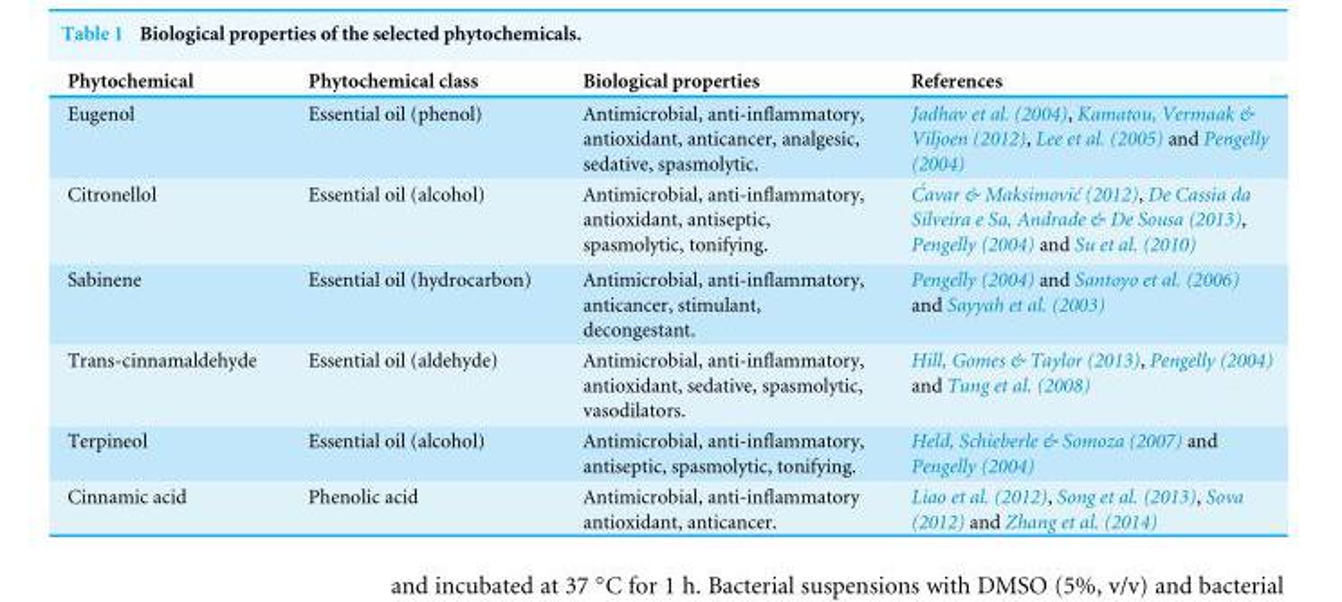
<table><thead><tr><td>Phytochemical</td><td>Phytochemical class</td><td>Biological properties</td><td>References</td></tr></thead><tbody><tr><td>Eugenol</td><td>Essential oil (phenol)</td><td>Antimicrobial, anti-inflammatory, antioxidant, anticancer, analgesic, sedative, spasmolytic.</td><td>Jadhav et al. (2004), Kamatou, Vermaak &amp; Viljoen (2012), Lee et al. (2005) and Pengelly (2004)</td></tr><tr><td>Citronellol</td><td>Essential oil (alcohol)</td><td>Antimicrobial, anti-inflammatory, antioxidant, antiseptic, spasmolytic, tonifying.</td><td>Ćavar &amp; Maksimović (2012), De Cassia da Silveira e Sa, Andrade &amp; De Sousa (2013), Pengelly (2004) and Su et al. (2010)</td></tr><tr><td>Sabinene</td><td>Essential oil (hydrocarbon)</td><td>Antimicrobial, anti-inflammatory, anticancer, stimulant, decongestant.</td><td>Pengelly (2004) and Santoyo et al. (2006) and Sayyah et al. (2003)</td></tr><tr><td>Trans-cinnamaldehyde</td><td>Essential oil (aldehyde)</td><td>Antimicrobial, anti-inflammatory, antioxidant, sedative, spasmolytic, vasodilators.</td><td>Hill, Gomes &amp; Taylor (2013), Pengelly (2004) and Tung et al. (2008)</td></tr><tr><td>Terpineol</td><td>Essential oil (alcohol)</td><td>Antimicrobial, anti-inflammatory, antiseptic, spasmolytic, tonifying.</td><td>Held, Schieberle &amp; Somoza (2007) and Pengelly (2004)</td></tr><tr><td>Cinnamic acid</td><td>Phenolic acid</td><td>Antimicrobial, anti-inflammatory antioxidant, anticancer.</td><td>Liao et al. (2012), Song et al. (2013), Sova (2012) and Zhang et al. (2014)</td></tr></tbody></table>